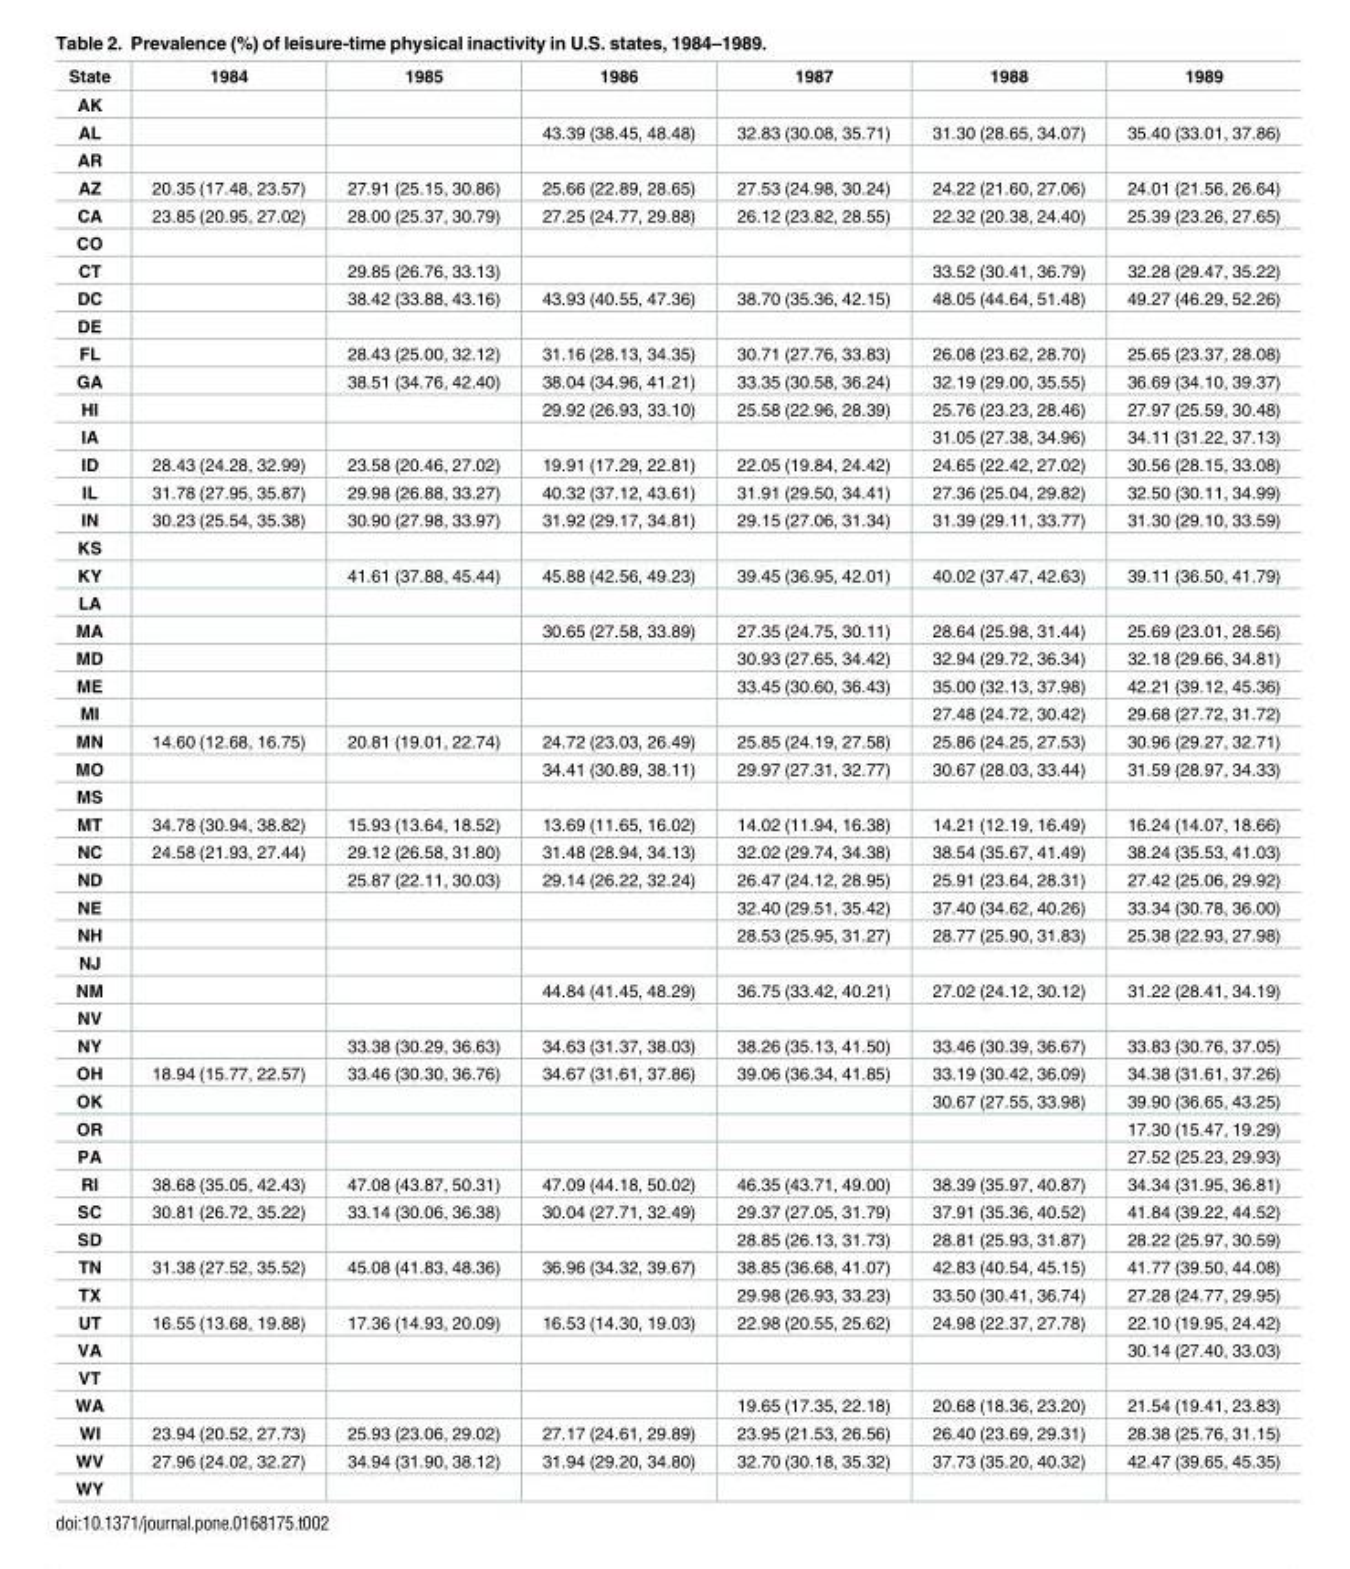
<table><thead><tr><td>State</td><td>1984</td><td>1985</td><td>1986</td><td>1987</td><td>1988</td><td>1989</td></tr></thead><tbody><tr><td colspan="7">AK</td></tr><tr><td>AL</td><td></td><td></td><td>43.39 (38.45, 48.48)</td><td>32.83 (30.08, 35.71)</td><td>31.30 (28.65, 34.07)</td><td>35.40 (33.01, 37.86)</td></tr><tr><td colspan="7">AR</td></tr><tr><td>AZ</td><td>20.35 (17.48, 23.57)</td><td>27.91 (25.15, 30.86)</td><td>25.66 (22.89, 28.65)</td><td>27.53 (24.98, 30.24)</td><td>24.22 (21.60, 27.06)</td><td>24.01 (21.56, 26.64)</td></tr><tr><td>CA</td><td>23.85 (20.95, 27.02)</td><td>28.00 (25.37, 30.79)</td><td>27.25 (24.77, 29.88)</td><td>26.12 (23.82, 28.55)</td><td>22.32 (20.38, 24.40)</td><td>25.39 (23.26, 27.65)</td></tr><tr><td colspan="7">CO</td></tr><tr><td>CT</td><td></td><td>29.85 (26.76, 33.13)</td><td></td><td></td><td>33.52 (30.41, 36.79)</td><td>32.28 (29.47, 35.22)</td></tr><tr><td>DC</td><td></td><td>38.42 (33.88, 43.16)</td><td>43.93 (40.55, 47.36)</td><td>38.70 (35.36, 42.15)</td><td>48.05 (44.64, 51.48)</td><td>49.27 (46.29, 52.26)</td></tr><tr><td colspan="7">DE</td></tr><tr><td>FL</td><td></td><td>28.43 (25.00, 32.12)</td><td>31.16 (28.13, 34.35)</td><td>30.71 (27.76, 33.83)</td><td>26.08 (23.62, 28.70)</td><td>25.65 (23.37, 28.08)</td></tr><tr><td>GA</td><td></td><td>38.51 (34.76, 42.40)</td><td>38.04 (34.96, 41.21)</td><td>33.35 (30.58, 36.24)</td><td>32.19 (29.00, 35.55)</td><td>36.69 (34.10, 39.37)</td></tr><tr><td>HI</td><td></td><td></td><td>29.92 (26.93, 33.10)</td><td>25.58 (22.96, 28.39)</td><td>25.76 (23.23, 28.46)</td><td>27.97 (25.59, 30.48)</td></tr><tr><td>IA</td><td></td><td></td><td></td><td></td><td>31.05 (27.38, 34.96)</td><td>34.11 (31.22, 37.13)</td></tr><tr><td>ID</td><td>28.43 (24.28, 32.99)</td><td>23.58 (20.46, 27.02)</td><td>19.91 (17.29, 22.81)</td><td>22.05 (19.84, 24.42)</td><td>24.65 (22.42, 27.02)</td><td>30.56 (28.15, 33.08)</td></tr><tr><td>IL</td><td>31.78 (27.95, 35.87)</td><td>29.98 (26.88, 33.27)</td><td>40.32 (37.12, 43.61)</td><td>31.91 (29.50, 34.41)</td><td>27.36 (25.04, 29.82)</td><td>32.50 (30.11, 34.99)</td></tr><tr><td>IN</td><td>30.23 (25.54, 35.38)</td><td>30.90 (27.98, 33.97)</td><td>31.92 (29.17, 34.81)</td><td>29.15 (27.06, 31.34)</td><td>31.39 (29.11, 33.77)</td><td>31.30 (29.10, 33.59)</td></tr><tr><td colspan="7">KS</td></tr><tr><td>KY</td><td></td><td>41.61 (37.88, 45.44)</td><td>45.88 (42.56, 49.23)</td><td>39.45 (36.95, 42.01)</td><td>40.02 (37.47, 42.63)</td><td>39.11 (36.50, 41.79)</td></tr><tr><td colspan="7">LA</td></tr><tr><td>MA</td><td></td><td></td><td>30.65 (27.58, 33.89)</td><td>27.35 (24.75, 30.11)</td><td>28.64 (25.98, 31.44)</td><td>25.69 (23.01, 28.56)</td></tr><tr><td>MD</td><td></td><td></td><td></td><td>30.93 (27.65, 34.42)</td><td>32.94 (29.72, 36.34)</td><td>32.18 (29.66, 34.81)</td></tr><tr><td>ME</td><td></td><td></td><td></td><td>33.45 (30.60, 36.43)</td><td>35.00 (32.13, 37.98)</td><td>42.21 (39.12, 45.36)</td></tr><tr><td>MI</td><td></td><td></td><td></td><td></td><td>27.48 (24.72, 30.42)</td><td>29.68 (27.72, 31.72)</td></tr><tr><td>MN</td><td>14.60 (12.68, 16.75)</td><td>20.81 (19.01, 22.74)</td><td>24.72 (23.03, 26.49)</td><td>25.85 (24.19, 27.58)</td><td>25.86 (24.25, 27.53)</td><td>30.96 (29.27, 32.71)</td></tr><tr><td>MO</td><td></td><td></td><td>34.41 (30.89, 38.11)</td><td>29.97 (27.31, 32.77)</td><td>30.67 (28.03, 33.44)</td><td>31.59 (28.97, 34.33)</td></tr><tr><td colspan="7">MS</td></tr><tr><td>MT</td><td>34.78 (30.94, 38.82)</td><td>15.93 (13.64, 18.52)</td><td>13.69 (11.65, 16.02)</td><td>14.02 (11.94, 16.38)</td><td>14.21 (12.19, 16.49)</td><td>16.24 (14.07, 18.66)</td></tr><tr><td>NC</td><td>24.58 (21.93, 27.44)</td><td>29.12 (26.58, 31.80)</td><td>31.48 (28.94, 34.13)</td><td>32.02 (29.74, 34.38)</td><td>38.54 (35.67, 41.49)</td><td>38.24 (35.53, 41.03)</td></tr><tr><td>ND</td><td></td><td>25.87 (22.11, 30.03)</td><td>29.14 (26.22, 32.24)</td><td>26.47 (24.12, 28.95)</td><td>25.91 (23.64, 28.31)</td><td>27.42 (25.06, 29.92)</td></tr><tr><td>NE</td><td></td><td></td><td></td><td>32.40 (29.51, 35.42)</td><td>37.40 (34.62, 40.26)</td><td>33.34 (30.78, 36.00)</td></tr><tr><td>NH</td><td></td><td></td><td></td><td>28.53 (25.95, 31.27)</td><td>28.77 (25.90, 31.83)</td><td>25.38 (22.93, 27.98)</td></tr><tr><td colspan="7">NJ</td></tr><tr><td>NM</td><td></td><td></td><td>44.84 (41.45, 48.29)</td><td>36.75 (33.42, 40.21)</td><td>27.02 (24.12, 30.12)</td><td>31.22 (28.41, 34.19)</td></tr><tr><td colspan="7">NV</td></tr><tr><td>NY</td><td></td><td>33.38 (30.29, 36.63)</td><td>34.63 (31.37, 38.03)</td><td>38.26 (35.13, 41.50)</td><td>33.46 (30.39, 36.67)</td><td>33.83 (30.76, 37.05)</td></tr><tr><td>OH</td><td>18.94 (15.77, 22.57)</td><td>33.46 (30.30, 36.76)</td><td>34.67 (31.61, 37.86)</td><td>39.06 (36.34, 41.85)</td><td>33.19 (30.42, 36.09)</td><td>34.38 (31.61, 37.26)</td></tr><tr><td>OK</td><td></td><td></td><td></td><td></td><td>30.67 (27.55, 33.98)</td><td>39.90 (36.65, 43.25)</td></tr><tr><td>OR</td><td></td><td></td><td></td><td></td><td></td><td>17.30 (15.47, 19.29)</td></tr><tr><td>PA</td><td></td><td></td><td></td><td></td><td></td><td>27.52 (25.23, 29.93)</td></tr><tr><td>RI</td><td>38.68 (35.05, 42.43)</td><td>47.08 (43.87, 50.31)</td><td>47.09 (44.18, 50.02)</td><td>46.35 (43.71, 49.00)</td><td>38.39 (35.97, 40.87)</td><td>34.34 (31.95, 36.81)</td></tr><tr><td>SC</td><td>30.81 (26.72, 35.22)</td><td>33.14 (30.06, 36.38)</td><td>30.04 (27.71, 32.49)</td><td>29.37 (27.05, 31.79)</td><td>37.91 (35.36, 40.52)</td><td>41.84 (39.22, 44.52)</td></tr><tr><td>SD</td><td></td><td></td><td></td><td>28.85 (26.13, 31.73)</td><td>28.81 (25.93, 31.87)</td><td>28.22 (25.97, 30.59)</td></tr><tr><td>TN</td><td>31.38 (27.52, 35.52)</td><td>45.08 (41.83, 48.36)</td><td>36.96 (34.32, 39.67)</td><td>38.85 (36.68, 41.07)</td><td>42.83 (40.54, 45.15)</td><td>41.77 (39.50, 44.08)</td></tr><tr><td>TX</td><td></td><td></td><td></td><td>29.98 (26.93, 33.23)</td><td>33.50 (30.41, 36.74)</td><td>27.28 (24.77, 29.95)</td></tr><tr><td>UT</td><td>16.55 (13.68, 19.88)</td><td>17.36 (14.93, 20.09)</td><td>16.53 (14.30, 19.03)</td><td>22.98 (20.55, 25.62)</td><td>24.98 (22.37, 27.78)</td><td>22.10 (19.95, 24.42)</td></tr><tr><td>VA</td><td></td><td></td><td></td><td></td><td></td><td>30.14 (27.40, 33.03)</td></tr><tr><td colspan="7">VT</td></tr><tr><td>WA</td><td></td><td></td><td></td><td>19.65 (17.35, 22.18)</td><td>20.68 (18.36, 23.20)</td><td>21.54 (19.41, 23.83)</td></tr><tr><td>WI</td><td>23.94 (20.52, 27.73)</td><td>25.93 (23.06, 29.02)</td><td>27.17 (24.61, 29.89)</td><td>23.95 (21.53, 26.56)</td><td>26.40 (23.69, 29.31)</td><td>28.38 (25.76, 31.15)</td></tr><tr><td>WV</td><td>27.96 (24.02, 32.27)</td><td>34.94 (31.90, 38.12)</td><td>31.94 (29.20, 34.80)</td><td>32.70 (30.18, 35.32)</td><td>37.73 (35.20, 40.32)</td><td>42.47 (39.65, 45.35)</td></tr><tr><td>WY</td><td></td><td></td><td></td><td></td><td></td><td></td></tr></tbody></table>